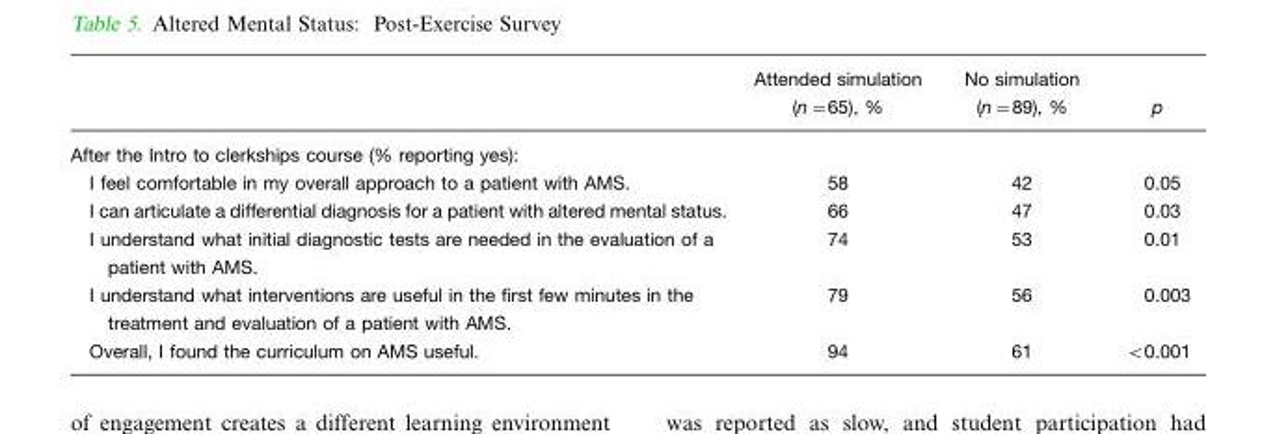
<table><thead><tr><td></td><td>Attended simulation (n=65), %</td><td>No simulation (n=89), %</td><td>p</td></tr></thead><tbody><tr><td colspan="4">After the Intro to clerkships course (% reporting yes):</td></tr><tr><td>I feel comfortable in my overall approach to a patient with AMS.</td><td>58</td><td>42</td><td>0.05</td></tr><tr><td>I can articulate a differential diagnosis for a patient with altered mental status.</td><td>66</td><td>47</td><td>0.03</td></tr><tr><td>I understand what initial diagnostic tests are needed in the evaluation of a patient with AMS.</td><td>74</td><td>53</td><td>0.01</td></tr><tr><td>I understand what interventions are useful in the first few minutes in the treatment and evaluation of a patient with AMS.</td><td>79</td><td>56</td><td>0.003</td></tr><tr><td>Overall, I found the curriculum on AMS useful.</td><td>94</td><td>61</td><td>&lt;0.001</td></tr></tbody></table>